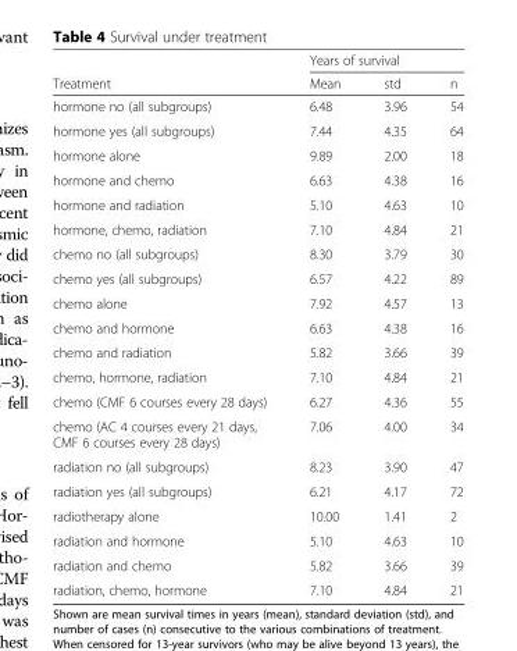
<table><thead><tr><td rowspan="2">Treatment</td><td colspan="3">Years of survival</td></tr><tr><td>Mean</td><td>std</td><td>n</td></tr></thead><tbody><tr><td>hormone no (all subgroups)</td><td>6.48</td><td>3.96</td><td>54</td></tr><tr><td>hormone yes (all subgroups)</td><td>7.44</td><td>4.35</td><td>64</td></tr><tr><td>hormone alone</td><td>9.89</td><td>2.00</td><td>18</td></tr><tr><td>hormone and chemo</td><td>6.63</td><td>4.38</td><td>16</td></tr><tr><td>hormone and radiation</td><td>5.10</td><td>4.63</td><td>10</td></tr><tr><td>hormone, chemo, radiation</td><td>7.10</td><td>4.84</td><td>21</td></tr><tr><td>chemo no (all subgroups)</td><td>8.30</td><td>3.79</td><td>30</td></tr><tr><td>chemo yes (all subgroups)</td><td>6.57</td><td>4.22</td><td>89</td></tr><tr><td>chemo alone</td><td>7.92</td><td>4.57</td><td>13</td></tr><tr><td>chemo and hormone</td><td>6.63</td><td>4.38</td><td>16</td></tr><tr><td>chemo and radiation</td><td>5.82</td><td>3.66</td><td>39</td></tr><tr><td>chemo, hormone, radiation</td><td>7.10</td><td>4.84</td><td>21</td></tr><tr><td>chemo (CMF 6 courses every 28 days)</td><td>6.27</td><td>4.36</td><td>55</td></tr><tr><td>chemo (AC 4 courses every 21 days, CMF 6 courses every 28 days)</td><td>7.06</td><td>4.00</td><td>34</td></tr><tr><td>radiation no (all subgroups)</td><td>8.23</td><td>3.90</td><td>47</td></tr><tr><td>radiation yes (all subgroups)</td><td>6.21</td><td>4.17</td><td>72</td></tr><tr><td>radiotherapy alone</td><td>10.00</td><td>1.41</td><td>2</td></tr><tr><td>radiation and hormone</td><td>5.10</td><td>4.63</td><td>10</td></tr><tr><td>radiation and chemo</td><td>5.82</td><td>3.66</td><td>39</td></tr><tr><td>radiation, chemo, hormone</td><td>7.10</td><td>4.84</td><td>21</td></tr></tbody></table>